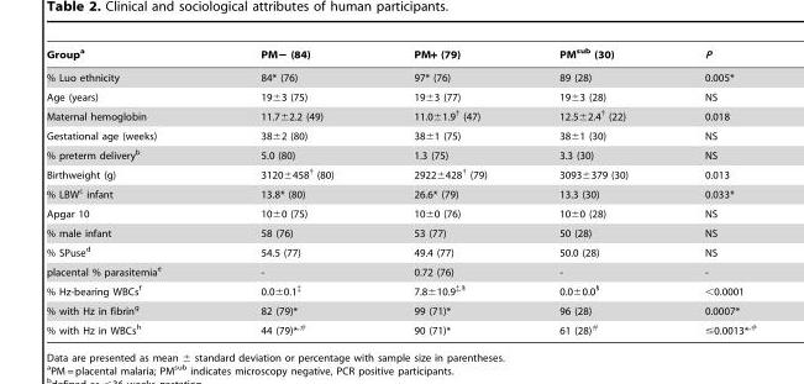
<table><thead><tr><td>Group<sup>a</sup></td><td>PM− (84)</td><td>PM+ (79)</td><td>PM<sup>sub</sup> (30)</td><td>P</td></tr></thead><tbody><tr><td>% Luo ethnicity</td><td>84* (76)</td><td>97* (76)</td><td>89 (28)</td><td>0.005*</td></tr><tr><td>Age (years)</td><td>19±3 (75)</td><td>19±3 (77)</td><td>19±3 (28)</td><td>NS</td></tr><tr><td>Maternal hemoglobin</td><td>11.7±2.2 (49)</td><td>11.0±1.9† (47)</td><td>12.5±2.4† (22)</td><td>0.018</td></tr><tr><td>Gestational age (weeks)</td><td>38±2 (80)</td><td>38±1 (75)</td><td>38±1 (30)</td><td>NS</td></tr><tr><td>% preterm delivery<sup>b</sup></td><td>5.0 (80)</td><td>1.3 (75)</td><td>3.3 (30)</td><td>NS</td></tr><tr><td>Birthweight (g)</td><td>3120±458† (80)</td><td>2922±428† (79)</td><td>3093±379 (30)</td><td>0.013</td></tr><tr><td>% LBW<sup>c</sup> infant</td><td>13.8* (80)</td><td>26.6* (79)</td><td>13.3 (30)</td><td>0.033*</td></tr><tr><td>Apgar 10</td><td>10±0 (75)</td><td>10±0 (76)</td><td>10±0 (28)</td><td>NS</td></tr><tr><td>% male infant</td><td>58 (76)</td><td>53 (77)</td><td>50 (28)</td><td>NS</td></tr><tr><td>% SPuse<sup>d</sup></td><td>54.5 (77)</td><td>49.4 (77)</td><td>50.0 (28)</td><td>NS</td></tr><tr><td>placental % parasitemia<sup>e</sup></td><td>-</td><td>0.72 (76)</td><td>-</td><td>-</td></tr><tr><td>% Hz-bearing WBCs<sup>f</sup></td><td>0.0±0.1‡</td><td>7.8±10.9‡,§</td><td>0.0±0.0§</td><td>&lt;0.0001</td></tr><tr><td>% with Hz in fibrin<sup>g</sup></td><td>82 (79)*</td><td>99 (71)*</td><td>96 (28)</td><td>0.0007*</td></tr><tr><td>% with Hz in WBCs<sup>h</sup></td><td>44 (79)*<sup>,#</sup></td><td>90 (71)*</td><td>61 (28)<sup>#</sup></td><td>≤0.0013*<sup>,#</sup></td></tr></tbody></table>